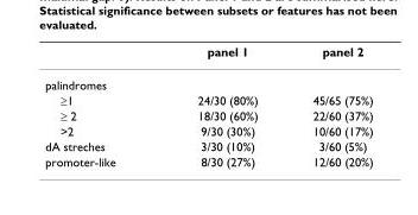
<table><thead><tr><td></td><td>panel 1</td><td>panel 2</td></tr></thead><tbody><tr><td colspan="3">palindromes</td></tr><tr><td>≥1</td><td>24/30 (80%)</td><td>45/65 (75%)</td></tr><tr><td>≥ 2</td><td>18/30 (60%)</td><td>22/60 (37%)</td></tr><tr><td>&gt;2</td><td>9/30 (30%)</td><td>10/60 (17%)</td></tr><tr><td>dA streches</td><td>3/30 (10%)</td><td>3/60 (5%)</td></tr><tr><td>promoter-like</td><td>8/30 (27%)</td><td>12/60 (20%)</td></tr></tbody></table>